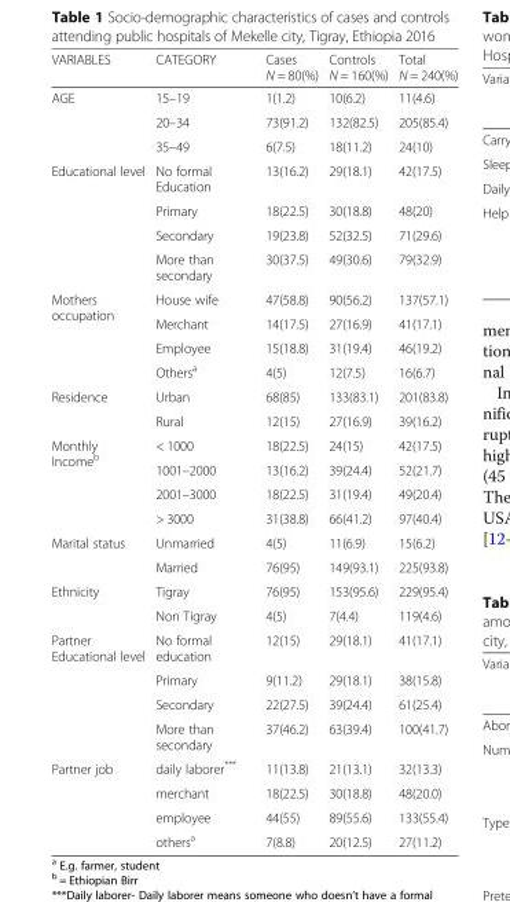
<table><thead><tr><td>VARIABLES</td><td>CATEGORY</td><td>Cases N = 80(%)</td><td>Controls N = 160(%)</td><td>Total N = 240(%)</td></tr></thead><tbody><tr><td rowspan="3">AGE</td><td>15–19</td><td>1(1.2)</td><td>10(6.2)</td><td>11(4.6)</td></tr><tr><td>20–34</td><td>73(91.2)</td><td>132(82.5)</td><td>205(85.4)</td></tr><tr><td>35–49</td><td>6(7.5)</td><td>18(11.2)</td><td>24(10)</td></tr><tr><td rowspan="4">Educational level</td><td>No formal Education</td><td>13(16.2)</td><td>29(18.1)</td><td>42(17.5)</td></tr><tr><td>Primary</td><td>18(22.5)</td><td>30(18.8)</td><td>48(20)</td></tr><tr><td>Secondary</td><td>19(23.8)</td><td>52(32.5)</td><td>71(29.6)</td></tr><tr><td>More than secondary</td><td>30(37.5)</td><td>49(30.6)</td><td>79(32.9)</td></tr><tr><td rowspan="4">Mothers occupation</td><td>House wife</td><td>47(58.8)</td><td>90(56.2)</td><td>137(57.1)</td></tr><tr><td>Merchant</td><td>14(17.5)</td><td>27(16.9)</td><td>41(17.1)</td></tr><tr><td>Employee</td><td>15(18.8)</td><td>31(19.4)</td><td>46(19.2)</td></tr><tr><td>Others<sup>a</sup></td><td>4(5)</td><td>12(7.5)</td><td>16(6.7)</td></tr><tr><td rowspan="2">Residence</td><td>Urban</td><td>68(85)</td><td>133(83.1)</td><td>201(83.8)</td></tr><tr><td>Rural</td><td>12(15)</td><td>27(16.9)</td><td>39(16.2)</td></tr><tr><td rowspan="4">Monthly Income<sup>b</sup></td><td>&lt; 1000</td><td>18(22.5)</td><td>24(15)</td><td>42(17.5)</td></tr><tr><td>1001–2000</td><td>13(16.2)</td><td>39(24.4)</td><td>52(21.7)</td></tr><tr><td>2001–3000</td><td>18(22.5)</td><td>31(19.4)</td><td>49(20.4)</td></tr><tr><td>&gt; 3000</td><td>31(38.8)</td><td>66(41.2)</td><td>97(40.4)</td></tr><tr><td rowspan="2">Marital status</td><td>Unmarried</td><td>4(5)</td><td>11(6.9)</td><td>15(6.2)</td></tr><tr><td>Married</td><td>76(95)</td><td>149(93.1)</td><td>225(93.8)</td></tr><tr><td rowspan="2">Ethnicity</td><td>Tigray</td><td>76(95)</td><td>153(95.6)</td><td>229(95.4)</td></tr><tr><td>Non Tigray</td><td>4(5)</td><td>7(4.4)</td><td>119(4.6)</td></tr><tr><td rowspan="4">Partner Educational level</td><td>No formal education</td><td>12(15)</td><td>29(18.1)</td><td>41(17.1)</td></tr><tr><td>Primary</td><td>9(11.2)</td><td>29(18.1)</td><td>38(15.8)</td></tr><tr><td>Secondary</td><td>22(27.5)</td><td>39(24.4)</td><td>61(25.4)</td></tr><tr><td>More than secondary</td><td>37(46.2)</td><td>63(39.4)</td><td>100(41.7)</td></tr><tr><td rowspan="4">Partner job</td><td>daily laborer***</td><td>11(13.8)</td><td>21(13.1)</td><td>32(13.3)</td></tr><tr><td>merchant</td><td>18(22.5)</td><td>30(18.8)</td><td>48(20.0)</td></tr><tr><td>employee</td><td>44(55)</td><td>89(55.6)</td><td>133(55.4)</td></tr><tr><td>others<sup>a</sup></td><td>7(8.8)</td><td>20(12.5)</td><td>27(11.2)</td></tr></tbody></table>